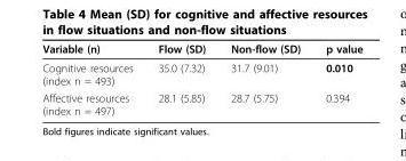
<table><thead><tr><td>Variable (n)</td><td>Flow (SD)</td><td>Non-flow (SD)</td><td>p value</td></tr></thead><tbody><tr><td>Cognitive resources (index n = 493)</td><td>35.0 (7.32)</td><td>31.7 (9.01)</td><td>0.010</td></tr><tr><td>Affective resources (index n = 497)</td><td>28.1 (5.85)</td><td>28.7 (5.75)</td><td>0.394</td></tr></tbody></table>